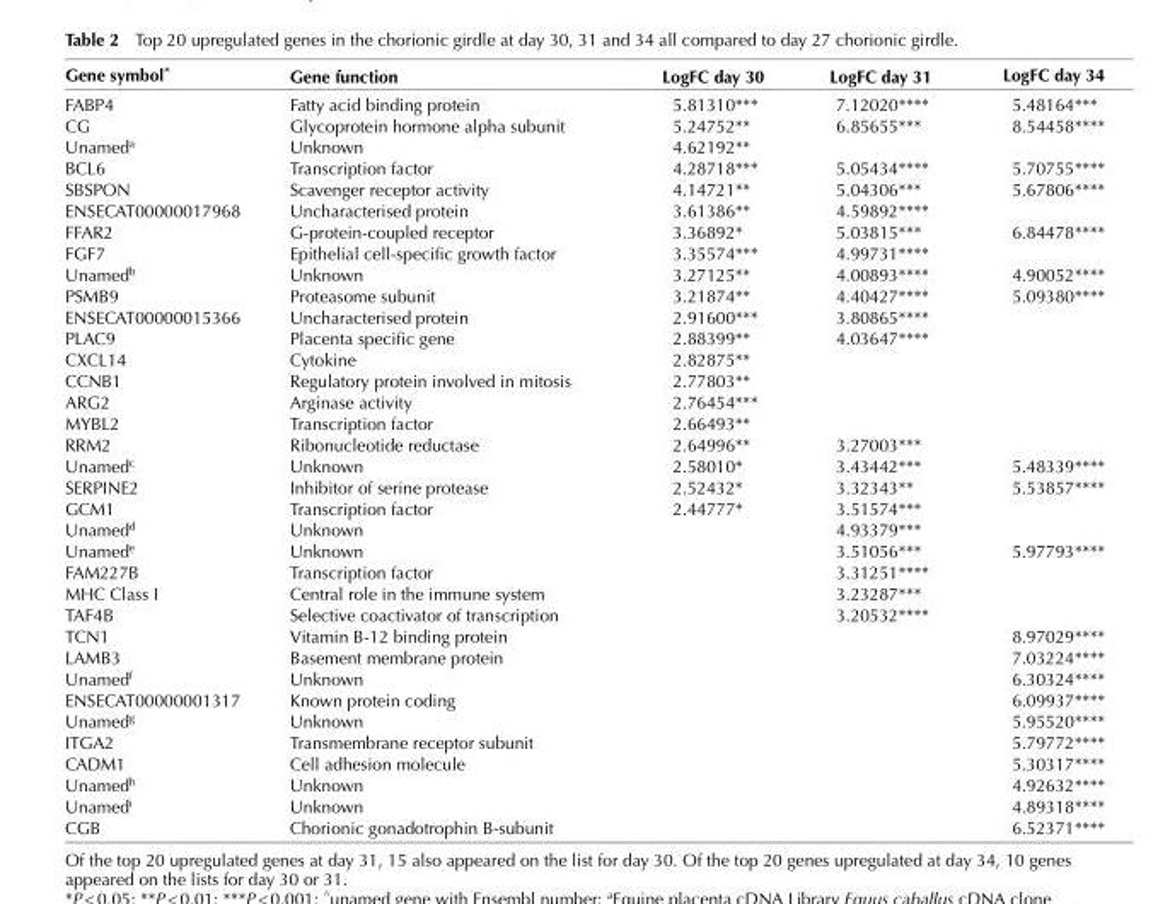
<table><thead><tr><td>Gene symbol<sup>^</sup></td><td>Gene function</td><td>LogFC day 30</td><td>LogFC day 31</td><td>LogFC day 34</td></tr></thead><tbody><tr><td>FABP4</td><td>Fatty acid binding protein</td><td>5.81310***</td><td>7.12020****</td><td>5.48164***</td></tr><tr><td>CG</td><td>Glycoprotein hormone alpha subunit</td><td>5.24752**</td><td>6.85655***</td><td>8.54458****</td></tr><tr><td>Unamed<sup>a</sup></td><td>Unknown</td><td>4.62192**</td><td></td><td></td></tr><tr><td>BCL6</td><td>Transcription factor</td><td>4.28718***</td><td>5.05434****</td><td>5.70755****</td></tr><tr><td>SBSPON</td><td>Scavenger receptor activity</td><td>4.14721**</td><td>5.04306***</td><td>5.67806****</td></tr><tr><td>ENSECAT00000017968</td><td>Uncharacterised protein</td><td>3.61386**</td><td>4.59892****</td><td></td></tr><tr><td>FFAR2</td><td>G-protein-coupled receptor</td><td>3.36892*</td><td>5.03815***</td><td>6.84478****</td></tr><tr><td>FGF7</td><td>Epithelial cell-specific growth factor</td><td>3.35574***</td><td>4.99731****</td><td></td></tr><tr><td>Unamed<sup>b</sup></td><td>Unknown</td><td>3.27125**</td><td>4.00893****</td><td>4.90052****</td></tr><tr><td>PSMB9</td><td>Proteasome subunit</td><td>3.21874**</td><td>4.40427****</td><td>5.09380****</td></tr><tr><td>ENSECAT00000015366</td><td>Uncharacterised protein</td><td>2.91600***</td><td>3.80865****</td><td></td></tr><tr><td>PLAC9</td><td>Placenta specific gene</td><td>2.88399**</td><td>4.03647****</td><td></td></tr><tr><td>CXCL14</td><td>Cytokine</td><td>2.82875**</td><td></td><td></td></tr><tr><td>CCNB1</td><td>Regulatory protein involved in mitosis</td><td>2.77803**</td><td></td><td></td></tr><tr><td>ARG2</td><td>Arginase activity</td><td>2.76454***</td><td></td><td></td></tr><tr><td>MYBL2</td><td>Transcription factor</td><td>2.66493**</td><td></td><td></td></tr><tr><td>RRM2</td><td>Ribonucleotide reductase</td><td>2.64996**</td><td>3.27003***</td><td></td></tr><tr><td>Unamed<sup>c</sup></td><td>Unknown</td><td>2.58010*</td><td>3.43442***</td><td>5.48339****</td></tr><tr><td>SERPINE2</td><td>Inhibitor of serine protease</td><td>2.52432*</td><td>3.32343**</td><td>5.53857****</td></tr><tr><td>GCM1</td><td>Transcription factor</td><td>2.44777*</td><td>3.51574***</td><td></td></tr><tr><td>Unamed<sup>d</sup></td><td>Unknown</td><td></td><td>4.93379***</td><td></td></tr><tr><td>Unamed<sup>e</sup></td><td>Unknown</td><td></td><td>3.51056***</td><td>5.97793****</td></tr><tr><td>FAM227B</td><td>Transcription factor</td><td></td><td>3.31251****</td><td></td></tr><tr><td>MHC Class I</td><td>Central role in the immune system</td><td></td><td>3.23287***</td><td></td></tr><tr><td>TAF4B</td><td>Selective coactivator of transcription</td><td></td><td>3.20532****</td><td></td></tr><tr><td>TCN1</td><td>Vitamin B-12 binding protein</td><td></td><td></td><td>8.97029****</td></tr><tr><td>LAMB3</td><td>Basement membrane protein</td><td></td><td></td><td>7.03224****</td></tr><tr><td>Unamed<sup>f</sup></td><td>Unknown</td><td></td><td></td><td>6.30324****</td></tr><tr><td>ENSECAT00000001317</td><td>Known protein coding</td><td></td><td></td><td>6.09937****</td></tr><tr><td>Unamed<sup>g</sup></td><td>Unknown</td><td></td><td></td><td>5.95520****</td></tr><tr><td>ITGA2</td><td>Transmembrane receptor subunit</td><td></td><td></td><td>5.79772****</td></tr><tr><td>CADM1</td><td>Cell adhesion molecule</td><td></td><td></td><td>5.30317****</td></tr><tr><td>Unamed<sup>h</sup></td><td>Unknown</td><td></td><td></td><td>4.92632****</td></tr><tr><td>Unamed<sup>i</sup></td><td>Unknown</td><td></td><td></td><td>4.89318****</td></tr><tr><td>CGB</td><td>Chorionic gonadotrophin B-subunit</td><td></td><td></td><td>6.52371****</td></tr></tbody></table>